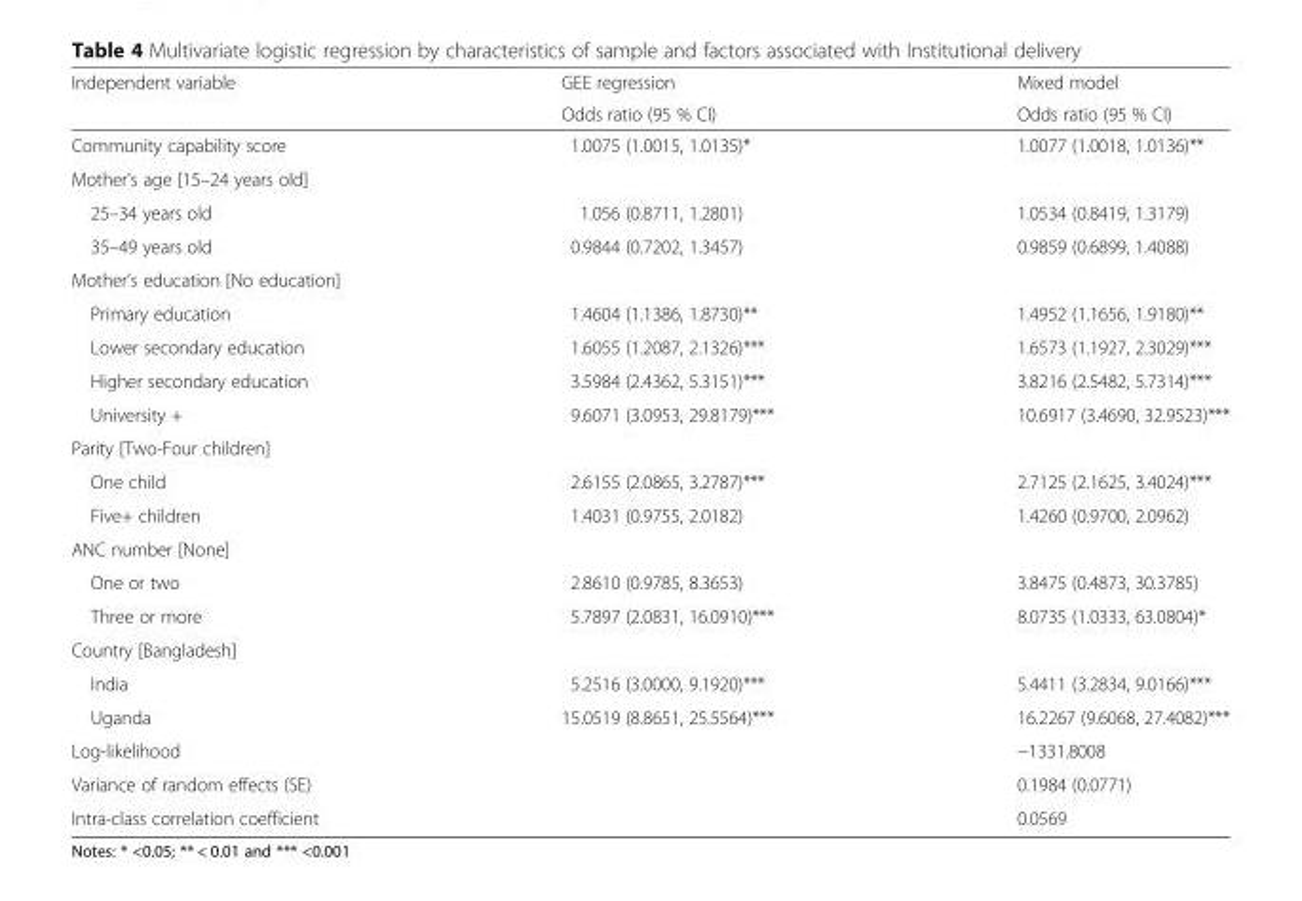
<table><thead><tr><td rowspan="2">Independent variable</td><td rowspan="2">GEE regression Odds ratio (95 % CI)</td><td rowspan="2">Mixed model Odds ratio (95 % CI)</td></tr><tr></tr></thead><tbody><tr><td>Community capability score</td><td>1.0075 (1.0015, 1.0135)*</td><td>1.0077 (1.0018, 1.0136)**</td></tr><tr><td colspan="3">Mother’s age [15–24 years old]</td></tr><tr><td>25–34 years old</td><td>1.056 (0.8711, 1.2801)</td><td>1.0534 (0.8419, 1.3179)</td></tr><tr><td>35–49 years old</td><td>0.9844 (0.7202, 1.3457)</td><td>0.9859 (0.6899, 1.4088)</td></tr><tr><td colspan="3">Mother’s education [No education]</td></tr><tr><td>Primary education</td><td>1.4604 (1.1386, 1.8730)**</td><td>1.4952 (1.1656, 1.9180)**</td></tr><tr><td>Lower secondary education</td><td>1.6055 (1.2087, 2.1326)***</td><td>1.6573 (1.1927, 2.3029)***</td></tr><tr><td>Higher secondary education</td><td>3.5984 (2.4362, 5.3151)***</td><td>3.8216 (2.5482, 5.7314)***</td></tr><tr><td>University +</td><td>9.6071 (3.0953, 29.8179)***</td><td>10.6917 (3.4690, 32.9523)***</td></tr><tr><td colspan="3">Parity [Two-Four children]</td></tr><tr><td>One child</td><td>2.6155 (2.0865, 3.2787)***</td><td>2.7125 (2.1625, 3.4024)***</td></tr><tr><td>Five+ children</td><td>1.4031 (0.9755, 2.0182)</td><td>1.4260 (0.9700, 2.0962)</td></tr><tr><td colspan="3">ANC number [None]</td></tr><tr><td>One or two</td><td>2.8610 (0.9785, 8.3653)</td><td>3.8475 (0.4873, 30.3785)</td></tr><tr><td>Three or more</td><td>5.7897 (2.0831, 16.0910)***</td><td>8.0735 (1.0333, 63.0804)*</td></tr><tr><td colspan="3">Country [Bangladesh]</td></tr><tr><td>India</td><td>5.2516 (3.0000, 9.1920)***</td><td>5.4411 (3.2834, 9.0166)***</td></tr><tr><td>Uganda</td><td>15.0519 (8.8651, 25.5564)***</td><td>16.2267 (9.6068, 27.4082)***</td></tr><tr><td>Log-likelihood</td><td></td><td>−1331.8008</td></tr><tr><td>Variance of random effects (SE)</td><td></td><td>0.1984 (0.0771)</td></tr><tr><td>Intra-class correlation coefficient</td><td></td><td>0.0569</td></tr></tbody></table>